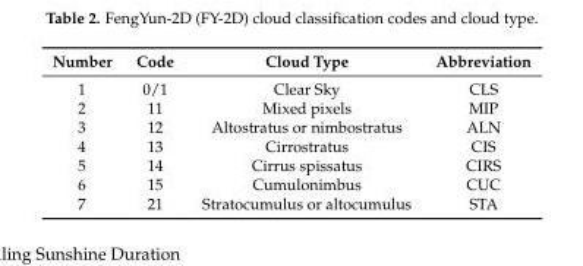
<table><thead><tr><td>Number</td><td>Code</td><td>Cloud Type</td><td>Abbreviation</td></tr></thead><tbody><tr><td>1</td><td>0/1</td><td>Clear Sky</td><td>CLS</td></tr><tr><td>2</td><td>11</td><td>Mixed pixels</td><td>MIP</td></tr><tr><td>3</td><td>12</td><td>Altostratus or nimbostratus</td><td>ALN</td></tr><tr><td>4</td><td>13</td><td>Cirrostratus</td><td>CIS</td></tr><tr><td>5</td><td>14</td><td>Cirrus spissatus</td><td>CIRS</td></tr><tr><td>6</td><td>15</td><td>Cumulonimbus</td><td>CUC</td></tr><tr><td>7</td><td>21</td><td>Stratocumulus or altocumulus</td><td>STA</td></tr></tbody></table>